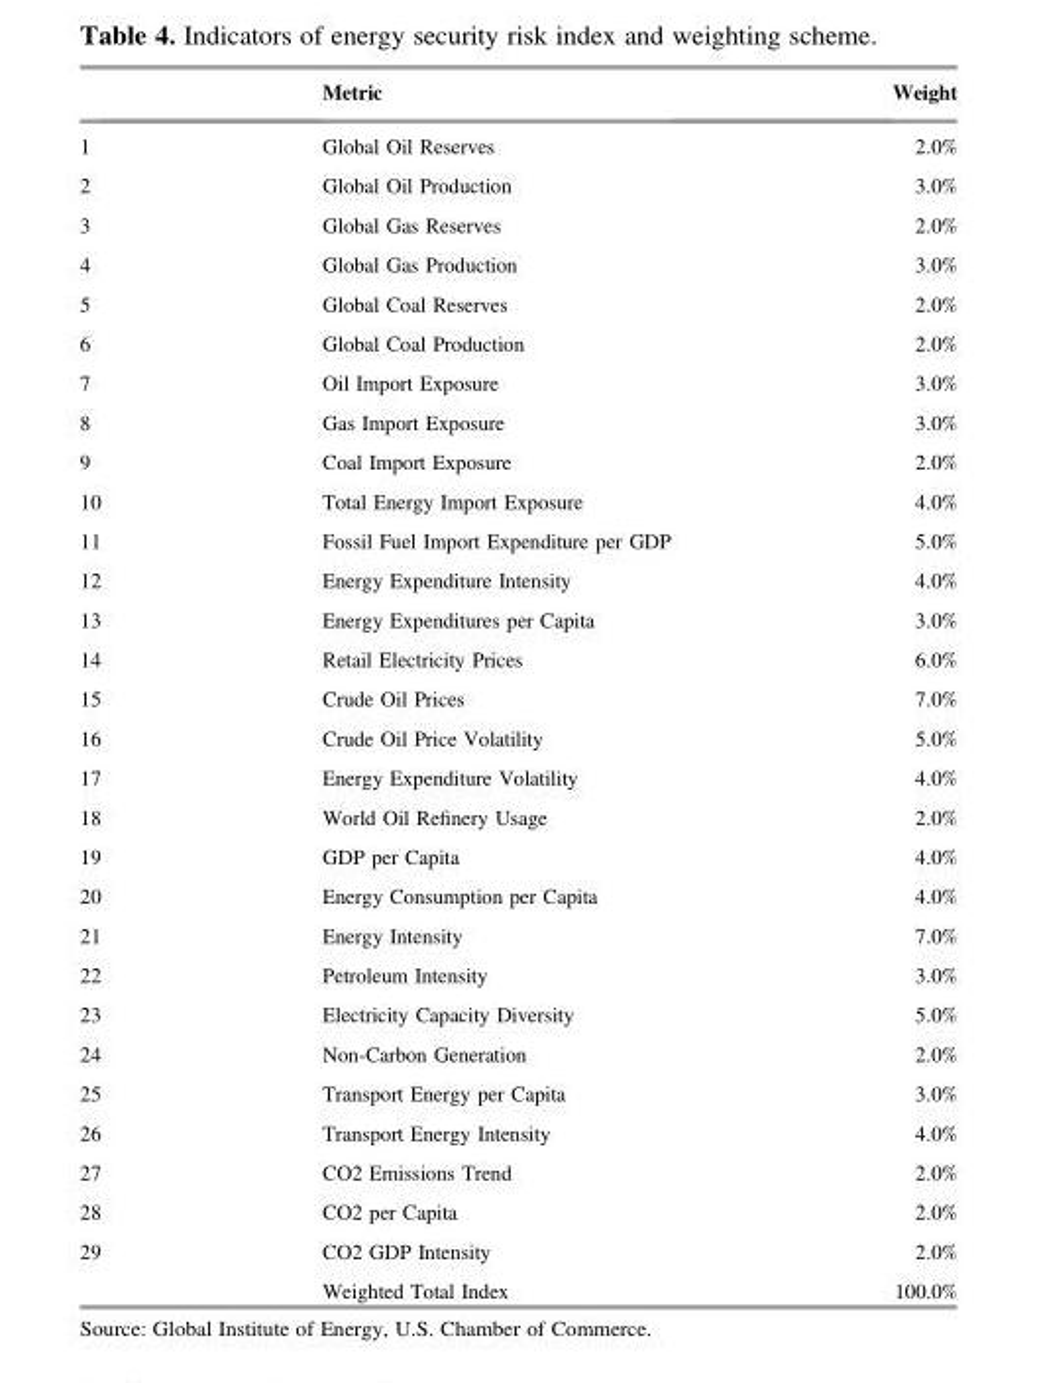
<table><thead><tr><td></td><td>Metric</td><td>Weight</td></tr></thead><tbody><tr><td>1</td><td>Global Oil Reserves</td><td>2.0%</td></tr><tr><td>2</td><td>Global Oil Production</td><td>3.0%</td></tr><tr><td>3</td><td>Global Gas Reserves</td><td>2.0%</td></tr><tr><td>4</td><td>Global Gas Production</td><td>3.0%</td></tr><tr><td>5</td><td>Global Coal Reserves</td><td>2.0%</td></tr><tr><td>6</td><td>Global Coal Production</td><td>2.0%</td></tr><tr><td>7</td><td>Oil Import Exposure</td><td>3.0%</td></tr><tr><td>8</td><td>Gas Import Exposure</td><td>3.0%</td></tr><tr><td>9</td><td>Coal Import Exposure</td><td>2.0%</td></tr><tr><td>10</td><td>Total Energy Import Exposure</td><td>4.0%</td></tr><tr><td>11</td><td>Fossil Fuel Import Expenditure per GDP</td><td>5.0%</td></tr><tr><td>12</td><td>Energy Expenditure Intensity</td><td>4.0%</td></tr><tr><td>13</td><td>Energy Expenditures per Capita</td><td>3.0%</td></tr><tr><td>14</td><td>Retail Electricity Prices</td><td>6.0%</td></tr><tr><td>15</td><td>Crude Oil Prices</td><td>7.0%</td></tr><tr><td>16</td><td>Crude Oil Price Volatility</td><td>5.0%</td></tr><tr><td>17</td><td>Energy Expenditure Volatility</td><td>4.0%</td></tr><tr><td>18</td><td>World Oil Refinery Usage</td><td>2.0%</td></tr><tr><td>19</td><td>GDP per Capita</td><td>4.0%</td></tr><tr><td>20</td><td>Energy Consumption per Capita</td><td>4.0%</td></tr><tr><td>21</td><td>Energy Intensity</td><td>7.0%</td></tr><tr><td>22</td><td>Petroleum Intensity</td><td>3.0%</td></tr><tr><td>23</td><td>Electricity Capacity Diversity</td><td>5.0%</td></tr><tr><td>24</td><td>Non-Carbon Generation</td><td>2.0%</td></tr><tr><td>25</td><td>Transport Energy per Capita</td><td>3.0%</td></tr><tr><td>26</td><td>Transport Energy Intensity</td><td>4.0%</td></tr><tr><td>27</td><td>CO2 Emissions Trend</td><td>2.0%</td></tr><tr><td>28</td><td>CO2 per Capita</td><td>2.0%</td></tr><tr><td rowspan="2">29</td><td>CO2 GDP Intensity</td><td>2.0%</td></tr><tr><td>Weighted Total Index</td><td>100.0%</td></tr></tbody></table>